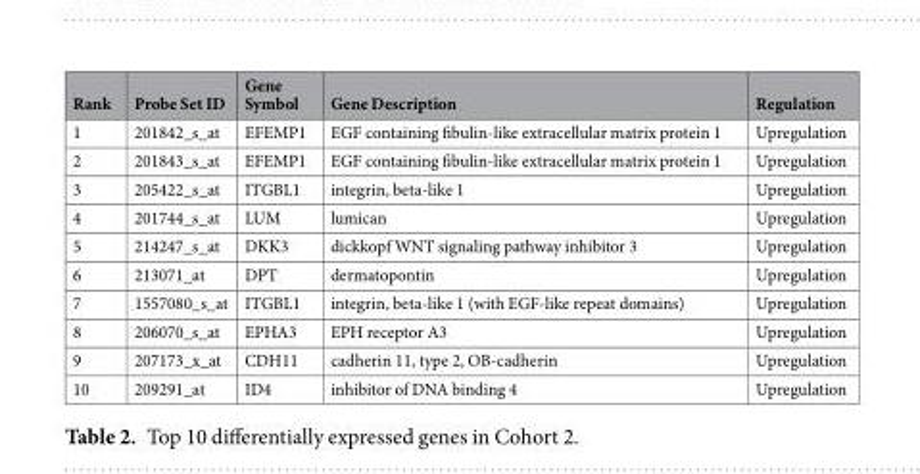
<table><thead><tr><td>Rank</td><td>Probe Set ID</td><td>Gene Symbol</td><td>Gene Description</td><td>Regulation</td></tr></thead><tbody><tr><td>1</td><td>201842_s_at</td><td>EFEMP1</td><td>EGF containing fibulin-like extracellular matrix protein 1</td><td>Upregulation</td></tr><tr><td>2</td><td>201843_s_at</td><td>EFEMP1</td><td>EGF containing fibulin-like extracellular matrix protein 1</td><td>Upregulation</td></tr><tr><td>3</td><td>205422_s_at</td><td>ITGBL1</td><td>integrin, beta-like 1</td><td>Upregulation</td></tr><tr><td>4</td><td>201744_s_at</td><td>LUM</td><td>lumican</td><td>Upregulation</td></tr><tr><td>5</td><td>214247_s_at</td><td>DKK3</td><td>dickkopf WNT signaling pathway inhibitor 3</td><td>Upregulation</td></tr><tr><td>6</td><td>213071_at</td><td>DPT</td><td>dermatopontin</td><td>Upregulation</td></tr><tr><td>7</td><td>1557080_s_at</td><td>ITGBL1</td><td>integrin, beta-like 1 (with EGF-like repeat domains)</td><td>Upregulation</td></tr><tr><td>8</td><td>206070_s_at</td><td>EPHA3</td><td>EPH receptor A3</td><td>Upregulation</td></tr><tr><td>9</td><td>207173_x_at</td><td>CDH11</td><td>cadherin 11, type 2, OB-cadherin</td><td>Upregulation</td></tr><tr><td>10</td><td>209291_at</td><td>ID4</td><td>inhibitor of DNA binding 4</td><td>Upregulation</td></tr></tbody></table>